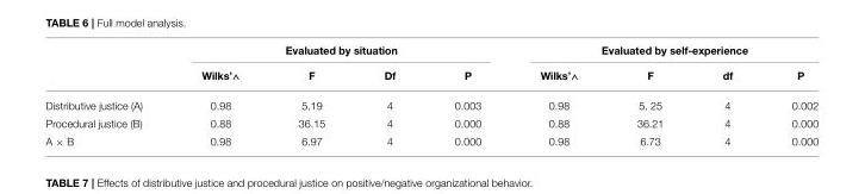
<table><thead><tr><td rowspan="2"></td><td colspan="4">Evaluated by situation</td><td colspan="4">Evaluated by self-experience</td></tr><tr><td>Wilks’∧</td><td>F</td><td>Df</td><td>P</td><td>Wilks’∧</td><td>F</td><td>df</td><td>P</td></tr></thead><tbody><tr><td>Distributive justice (A)</td><td>0.98</td><td>5.19</td><td>4</td><td>0.003</td><td>0.98</td><td>5. 25</td><td>4</td><td>0.002</td></tr><tr><td>Procedural justice (B)</td><td>0.88</td><td>36.15</td><td>4</td><td>0.000</td><td>0.88</td><td>36.21</td><td>4</td><td>0.000</td></tr><tr><td>A × B</td><td>0.98</td><td>6.97</td><td>4</td><td>0.000</td><td>0.98</td><td>6.73</td><td>4</td><td>0.000</td></tr></tbody></table>